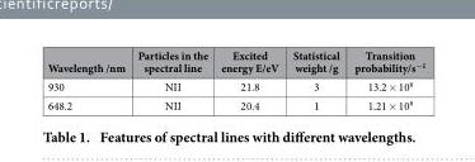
<table><thead><tr><td>Wavelength /nm</td><td>Particles in the spectral line</td><td>Excited energy E/eV</td><td>Statistical weight /g</td><td>Transition probability/s<sup>−1</sup></td></tr></thead><tbody><tr><td>930</td><td>NII</td><td>21.8</td><td>3</td><td>13.2 × 10<sup>8</sup></td></tr><tr><td>648.2</td><td>NII</td><td>20.4</td><td>1</td><td>1.21 × 10<sup>8</sup></td></tr></tbody></table>